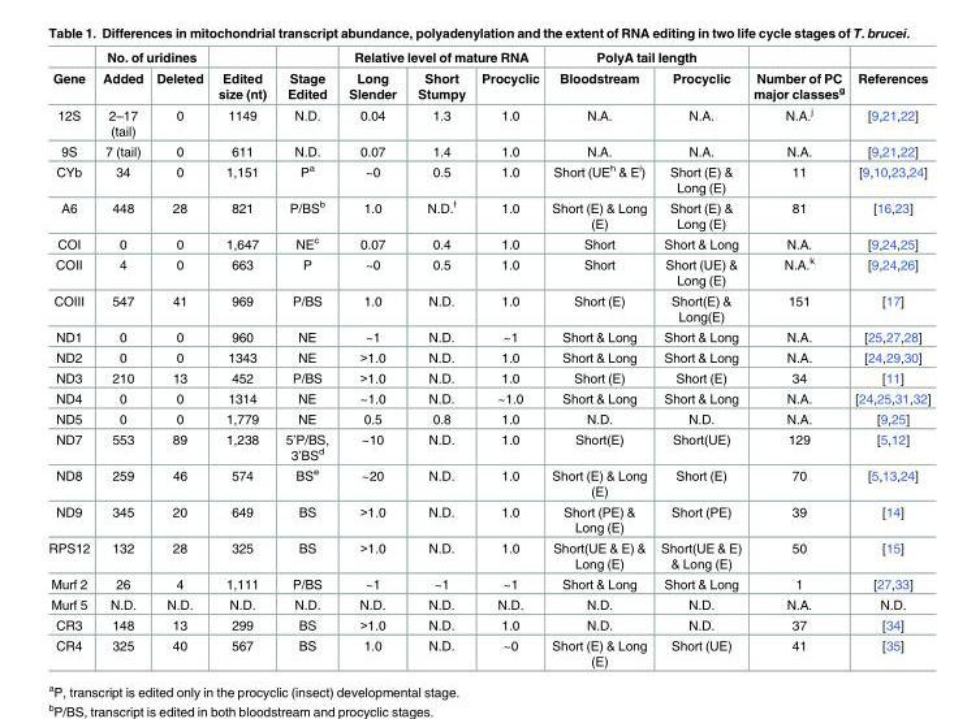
<table><thead><tr><td rowspan="2">Gene</td><td colspan="2">No. of uridines</td><td rowspan="2">Edited size (nt)</td><td rowspan="2">Stage Edited</td><td colspan="3">Relative level of mature RNA</td><td colspan="2">PolyA tail length</td><td rowspan="2">Number of PC major classes<sup>g</sup></td><td rowspan="2">References</td></tr><tr><td>Added</td><td>Deleted</td><td>Long Slender</td><td>Short Stumpy</td><td>Procyclic</td><td>Bloodstream</td><td>Procyclic</td></tr></thead><tbody><tr><td>12S</td><td>2–17 (tail)</td><td>0</td><td>1149</td><td>N.D.</td><td>0.04</td><td>1.3</td><td>1.0</td><td>N.A.</td><td>N.A.</td><td>N.A.<sup>j</sup></td><td>[9,21,22]</td></tr><tr><td>9S</td><td>7 (tail)</td><td>0</td><td>611</td><td>N.D.</td><td>0.07</td><td>1.4</td><td>1.0</td><td>N.A.</td><td>N.A.</td><td>N.A.</td><td>[9,21,22]</td></tr><tr><td>CYb</td><td>34</td><td>0</td><td>1,151</td><td>P<sup>a</sup></td><td>~0</td><td>0.5</td><td>1.0</td><td>Short (UE<sup>h</sup> &amp; E<sup>i</sup>)</td><td>Short (E) &amp; Long (E)</td><td>11</td><td>[9,10,23,24]</td></tr><tr><td>A6</td><td>448</td><td>28</td><td>821</td><td>P/BS<sup>b</sup></td><td>1.0</td><td>N.D.<sup>f</sup></td><td>1.0</td><td>Short (E) &amp; Long (E)</td><td>Short (E) &amp; Long (E)</td><td>81</td><td>[16,23]</td></tr><tr><td>COI</td><td>0</td><td>0</td><td>1,647</td><td>NE<sup>c</sup></td><td>0.07</td><td>0.4</td><td>1.0</td><td>Short</td><td>Short &amp; Long</td><td>N.A.</td><td>[9,24,25]</td></tr><tr><td>COII</td><td>4</td><td>0</td><td>663</td><td>P</td><td>~0</td><td>0.5</td><td>1.0</td><td>Short</td><td>Short (UE) &amp; Long (E)</td><td>N.A.<sup>k</sup></td><td>[9,24,26]</td></tr><tr><td>COIII</td><td>547</td><td>41</td><td>969</td><td>P/BS</td><td>1.0</td><td>N.D.</td><td>1.0</td><td>Short (E)</td><td>Short(E) &amp; Long(E)</td><td>151</td><td>[17]</td></tr><tr><td>ND1</td><td>0</td><td>0</td><td>960</td><td>NE</td><td>~1</td><td>N.D.</td><td>~1</td><td>Short &amp; Long</td><td>Short &amp; Long</td><td>N.A.</td><td>[25,27,28]</td></tr><tr><td>ND2</td><td>0</td><td>0</td><td>1343</td><td>NE</td><td>&gt;1.0</td><td>N.D.</td><td>1.0</td><td>Short &amp; Long</td><td>Short &amp; Long</td><td>N.A.</td><td>[24,29,30]</td></tr><tr><td>ND3</td><td>210</td><td>13</td><td>452</td><td>P/BS</td><td>&gt;1.0</td><td>N.D.</td><td>1.0</td><td>Short (E)</td><td>Short (E)</td><td>34</td><td>[11]</td></tr><tr><td>ND4</td><td>0</td><td>0</td><td>1314</td><td>NE</td><td>~1.0</td><td>N.D.</td><td>~1.0</td><td>Short &amp; Long</td><td>Short &amp; Long</td><td>N.A.</td><td>[24,25,31,32]</td></tr><tr><td>ND5</td><td>0</td><td>0</td><td>1,779</td><td>NE</td><td>0.5</td><td>0.8</td><td>1.0</td><td>N.D.</td><td>N.D.</td><td>N.A.</td><td>[9,25]</td></tr><tr><td>ND7</td><td>553</td><td>89</td><td>1,238</td><td>5’P/BS, 3’BS<sup>d</sup></td><td>~10</td><td>N.D.</td><td>1.0</td><td>Short(E)</td><td>Short(UE)</td><td>129</td><td>[5,12]</td></tr><tr><td>ND8</td><td>259</td><td>46</td><td>574</td><td>BS<sup>e</sup></td><td>~20</td><td>N.D.</td><td>1.0</td><td>Short (E) &amp; Long (E)</td><td>Short (E)</td><td>70</td><td>[5,13,24]</td></tr><tr><td>ND9</td><td>345</td><td>20</td><td>649</td><td>BS</td><td>&gt;1.0</td><td>N.D.</td><td>1.0</td><td>Short (PE) &amp; Long (E)</td><td>Short (PE)</td><td>39</td><td>[14]</td></tr><tr><td>RPS12</td><td>132</td><td>28</td><td>325</td><td>BS</td><td>&gt;1.0</td><td>N.D.</td><td>1.0</td><td>Short(UE &amp; E) &amp; Long (E)</td><td>Short(UE &amp; E) &amp; Long (E)</td><td>50</td><td>[15]</td></tr><tr><td>Murf 2</td><td>26</td><td>4</td><td>1,111</td><td>P/BS</td><td>~1</td><td>~1</td><td>~1</td><td>Short &amp; Long</td><td>Short &amp; Long</td><td>1</td><td>[27,33]</td></tr><tr><td>Murf 5</td><td>N.D.</td><td>N.D.</td><td>N.D.</td><td>N.D.</td><td>N.D.</td><td>N.D.</td><td>N.D.</td><td>N.D.</td><td>N.D.</td><td>N.A.</td><td>N.D.</td></tr><tr><td>CR3</td><td>148</td><td>13</td><td>299</td><td>BS</td><td>&gt;1.0</td><td>N.D.</td><td>1.0</td><td>N.D.</td><td>N.D.</td><td>37</td><td>[34]</td></tr><tr><td>CR4</td><td>325</td><td>40</td><td>567</td><td>BS</td><td>1.0</td><td>N.D.</td><td>~0</td><td>Short (E) &amp; Long (E)</td><td>Short (UE)</td><td>41</td><td>[35]</td></tr></tbody></table>